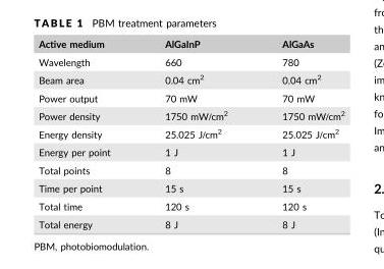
<table><thead><tr><td>Active medium</td><td>AlGaInP</td><td>AlGaAs</td></tr></thead><tbody><tr><td>Wavelength</td><td>660</td><td>780</td></tr><tr><td>Beam area</td><td>0.04 cm<sup>2</sup></td><td>0.04 cm<sup>2</sup></td></tr><tr><td>Power output</td><td>70 mW</td><td>70 mW</td></tr><tr><td>Power density</td><td>1750 mW/cm<sup>2</sup></td><td>1750 mW/cm<sup>2</sup></td></tr><tr><td>Energy density</td><td>25.025 J/cm<sup>2</sup></td><td>25.025 J/cm<sup>2</sup></td></tr><tr><td>Energy per point</td><td>1 J</td><td>1 J</td></tr><tr><td>Total points</td><td>8</td><td>8</td></tr><tr><td>Time per point</td><td>15 s</td><td>15 s</td></tr><tr><td>Total time</td><td>120 s</td><td>120 s</td></tr><tr><td>Total energy</td><td>8 J</td><td>8 J</td></tr></tbody></table>